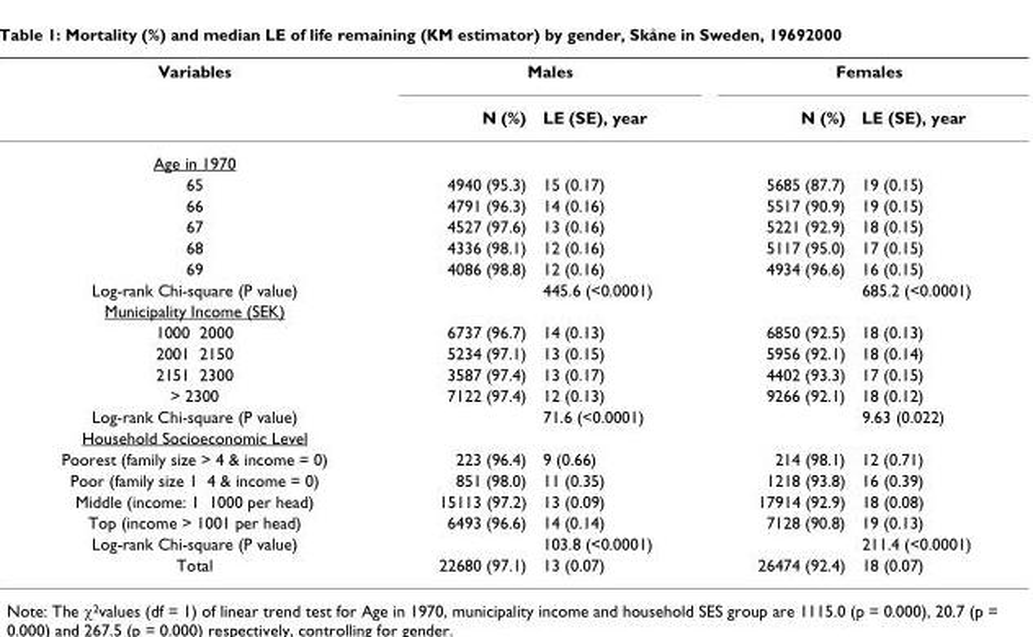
<table><thead><tr><td rowspan="2">Variables</td><td colspan="2">Males</td><td colspan="2">Females</td></tr><tr><td>N (%)</td><td>LE (SE), year</td><td>N (%)</td><td>LE (SE), year</td></tr></thead><tbody><tr><td colspan="5">Age in 1970</td></tr><tr><td>65</td><td>4940 (95.3)</td><td>15 (0.17)</td><td>5685 (87.7)</td><td>19 (0.15)</td></tr><tr><td>66</td><td>4791 (96.3)</td><td>14 (0.16)</td><td>5517 (90.9)</td><td>19 (0.15)</td></tr><tr><td>67</td><td>4527 (97.6)</td><td>13 (0.16)</td><td>5221 (92.9)</td><td>18 (0.15)</td></tr><tr><td>68</td><td>4336 (98.1)</td><td>12 (0.16)</td><td>5117 (95.0)</td><td>17 (0.15)</td></tr><tr><td>69</td><td>4086 (98.8)</td><td>12 (0.16)</td><td>4934 (96.6)</td><td>16 (0.15)</td></tr><tr><td>Log-rank Chi-square (P value)</td><td></td><td>445.6 (&lt;0.0001)</td><td></td><td>685.2 (&lt;0.0001)</td></tr><tr><td colspan="5">Municipality Income (SEK)</td></tr><tr><td>1000 2000</td><td>6737 (96.7)</td><td>14 (0.13)</td><td>6850 (92.5)</td><td>18 (0.13)</td></tr><tr><td>2001 2150</td><td>5234 (97.1)</td><td>13 (0.15)</td><td>5956 (92.1)</td><td>18 (0.14)</td></tr><tr><td>2151 2300</td><td>3587 (97.4)</td><td>13 (0.17)</td><td>4402 (93.3)</td><td>17 (0.15)</td></tr><tr><td>&gt; 2300</td><td>7122 (97.4)</td><td>12 (0.13)</td><td>9266 (92.1)</td><td>18 (0.12)</td></tr><tr><td>Log-rank Chi-square (P value)</td><td></td><td>71.6 (&lt;0.0001)</td><td></td><td>9.63 (0.022)</td></tr><tr><td colspan="5">Household Socioeconomic Level</td></tr><tr><td>Poorest (family size &gt; 4 &amp; income = 0)</td><td>223 (96.4)</td><td>9 (0.66)</td><td>214 (98.1)</td><td>12 (0.71)</td></tr><tr><td>Poor (family size 1 4 &amp; income = 0)</td><td>851 (98.0)</td><td>11 (0.35)</td><td>1218 (93.8)</td><td>16 (0.39)</td></tr><tr><td>Middle (income: 1 1000 per head)</td><td>15113 (97.2)</td><td>13 (0.09)</td><td>17914 (92.9)</td><td>18 (0.08)</td></tr><tr><td>Top (income &gt; 1001 per head)</td><td>6493 (96.6)</td><td>14 (0.14)</td><td>7128 (90.8)</td><td>19 (0.13)</td></tr><tr><td>Log-rank Chi-square (P value)</td><td></td><td>103.8 (&lt;0.0001)</td><td></td><td>211.4 (&lt;0.0001)</td></tr><tr><td>Total</td><td>22680 (97.1)</td><td>13 (0.07)</td><td>26474 (92.4)</td><td>18 (0.07)</td></tr></tbody></table>